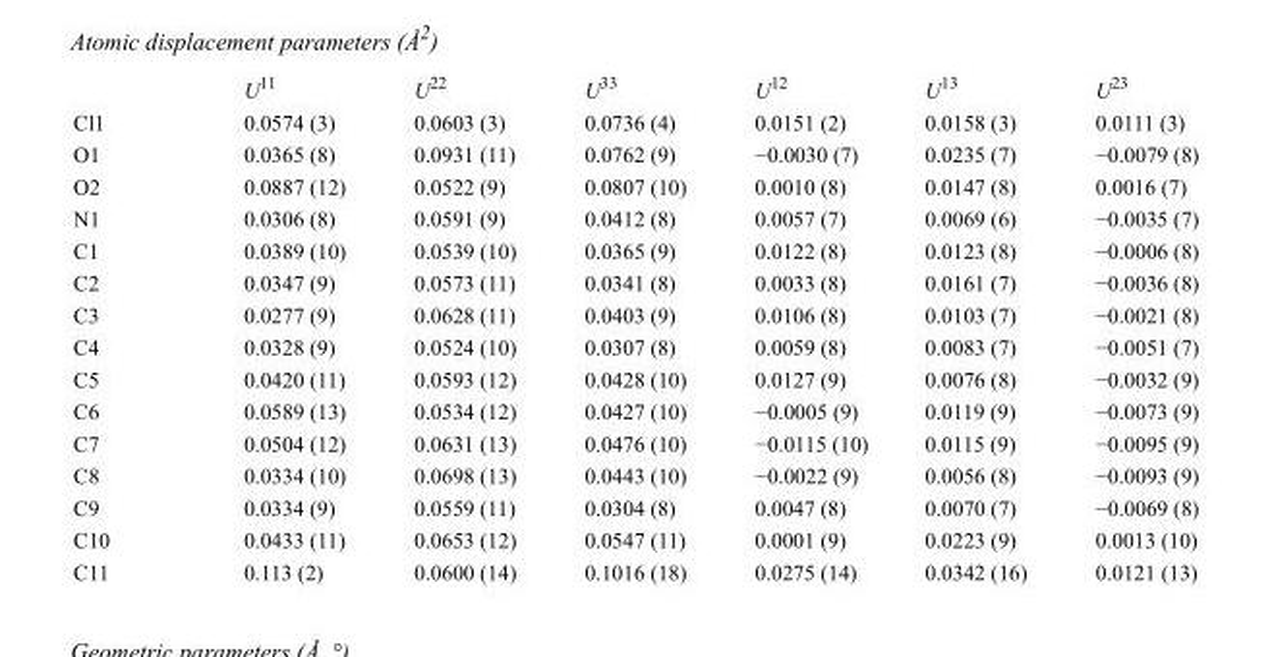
<table><thead><tr><td></td><td>U<sup>11</sup></td><td>U<sup>22</sup></td><td>U<sup>33</sup></td><td>U<sup>12</sup></td><td>U<sup>13</sup></td><td>U<sup>23</sup></td></tr></thead><tbody><tr><td>Cl1</td><td>0.0574 (3)</td><td>0.0603 (3)</td><td>0.0736 (4)</td><td>0.0151 (2)</td><td>0.0158 (3)</td><td>0.0111 (3)</td></tr><tr><td>O1</td><td>0.0365 (8)</td><td>0.0931 (11)</td><td>0.0762 (9)</td><td>−0.0030 (7)</td><td>0.0235 (7)</td><td>−0.0079 (8)</td></tr><tr><td>O2</td><td>0.0887 (12)</td><td>0.0522 (9)</td><td>0.0807 (10)</td><td>0.0010 (8)</td><td>0.0147 (8)</td><td>0.0016 (7)</td></tr><tr><td>N1</td><td>0.0306 (8)</td><td>0.0591 (9)</td><td>0.0412 (8)</td><td>0.0057 (7)</td><td>0.0069 (6)</td><td>−0.0035 (7)</td></tr><tr><td>C1</td><td>0.0389 (10)</td><td>0.0539 (10)</td><td>0.0365 (9)</td><td>0.0122 (8)</td><td>0.0123 (8)</td><td>−0.0006 (8)</td></tr><tr><td>C2</td><td>0.0347 (9)</td><td>0.0573 (11)</td><td>0.0341 (8)</td><td>0.0033 (8)</td><td>0.0161 (7)</td><td>−0.0036 (8)</td></tr><tr><td>C3</td><td>0.0277 (9)</td><td>0.0628 (11)</td><td>0.0403 (9)</td><td>0.0106 (8)</td><td>0.0103 (7)</td><td>−0.0021 (8)</td></tr><tr><td>C4</td><td>0.0328 (9)</td><td>0.0524 (10)</td><td>0.0307 (8)</td><td>0.0059 (8)</td><td>0.0083 (7)</td><td>−0.0051 (7)</td></tr><tr><td>C5</td><td>0.0420 (11)</td><td>0.0593 (12)</td><td>0.0428 (10)</td><td>0.0127 (9)</td><td>0.0076 (8)</td><td>−0.0032 (9)</td></tr><tr><td>C6</td><td>0.0589 (13)</td><td>0.0534 (12)</td><td>0.0427 (10)</td><td>−0.0005 (9)</td><td>0.0119 (9)</td><td>−0.0073 (9)</td></tr><tr><td>C7</td><td>0.0504 (12)</td><td>0.0631 (13)</td><td>0.0476 (10)</td><td>−0.0115 (10)</td><td>0.0115 (9)</td><td>−0.0095 (9)</td></tr><tr><td>C8</td><td>0.0334 (10)</td><td>0.0698 (13)</td><td>0.0443 (10)</td><td>−0.0022 (9)</td><td>0.0056 (8)</td><td>−0.0093 (9)</td></tr><tr><td>C9</td><td>0.0334 (9)</td><td>0.0559 (11)</td><td>0.0304 (8)</td><td>0.0047 (8)</td><td>0.0070 (7)</td><td>−0.0069 (8)</td></tr><tr><td>C10</td><td>0.0433 (11)</td><td>0.0653 (12)</td><td>0.0547 (11)</td><td>0.0001 (9)</td><td>0.0223 (9)</td><td>0.0013 (10)</td></tr><tr><td>C11</td><td>0.113 (2)</td><td>0.0600 (14)</td><td>0.1016 (18)</td><td>0.0275 (14)</td><td>0.0342 (16)</td><td>0.0121 (13)</td></tr></tbody></table>